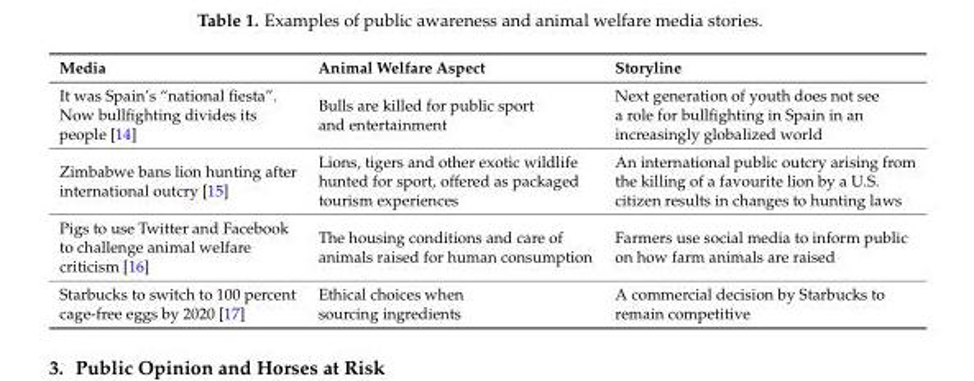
<table><thead><tr><td>Media</td><td>Animal Welfare Aspect</td><td>Storyline</td></tr></thead><tbody><tr><td>It was Spain’s “national fiesta”. Now bullfighting divides its people [14]</td><td>Bulls are killed for public sport and entertainment</td><td>Next generation of youth does not see a role for bullfighting in Spain in an increasingly globalized world</td></tr><tr><td>Zimbabwe bans lion hunting after international outcry [15]</td><td>Lions, tigers and other exotic wildlife hunted for sport, offered as packaged tourism experiences</td><td>An international public outcry arising from the killing of a favourite lion by a U.S. citizen results in changes to hunting laws</td></tr><tr><td>Pigs to use Twitter and Facebook to challenge animal welfare criticism [16]</td><td>The housing conditions and care of animals raised for human consumption</td><td>Farmers use social media to inform public on how farm animals are raised</td></tr><tr><td>Starbucks to switch to 100 percent cage-free eggs by 2020 [17]</td><td>Ethical choices when sourcing ingredients</td><td>A commercial decision by Starbucks to remain competitive</td></tr></tbody></table>